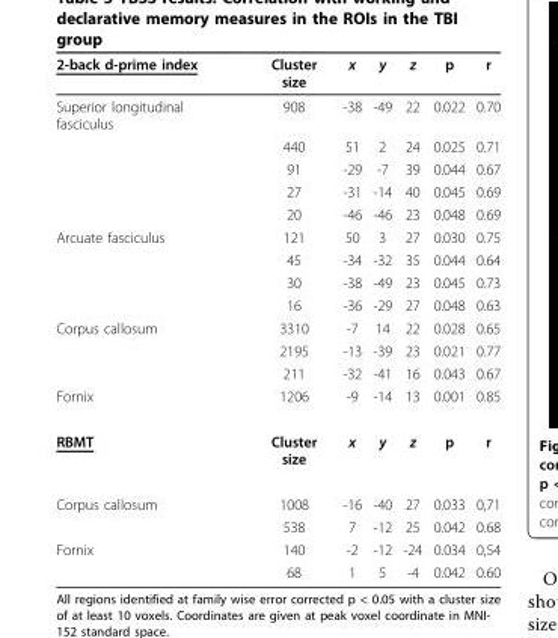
<table><thead><tr><td>2-back d-prime index</td><td>Cluster size</td><td>x</td><td>y</td><td>z</td><td>p</td><td>r</td></tr></thead><tbody><tr><td rowspan="5">Superior longitudinal fasciculus</td><td>908</td><td>-38</td><td>-49</td><td>22</td><td>0.022</td><td>0.70</td></tr><tr><td>440</td><td>51</td><td>2</td><td>24</td><td>0.025</td><td>0.71</td></tr><tr><td>91</td><td>-29</td><td>-7</td><td>39</td><td>0.044</td><td>0.67</td></tr><tr><td>27</td><td>-31</td><td>-14</td><td>40</td><td>0.045</td><td>0.69</td></tr><tr><td>20</td><td>-46</td><td>-46</td><td>23</td><td>0.048</td><td>0.69</td></tr><tr><td rowspan="4">Arcuate fasciculus</td><td>121</td><td>50</td><td>3</td><td>27</td><td>0.030</td><td>0.75</td></tr><tr><td>45</td><td>-34</td><td>-32</td><td>35</td><td>0.044</td><td>0.64</td></tr><tr><td>30</td><td>-38</td><td>-49</td><td>23</td><td>0.045</td><td>0.73</td></tr><tr><td>16</td><td>-36</td><td>-29</td><td>27</td><td>0.048</td><td>0.63</td></tr><tr><td rowspan="3">Corpus callosum</td><td>3310</td><td>-7</td><td>14</td><td>22</td><td>0.028</td><td>0.65</td></tr><tr><td>2195</td><td>-13</td><td>-39</td><td>23</td><td>0.021</td><td>0.77</td></tr><tr><td>211</td><td>-32</td><td>-41</td><td>16</td><td>0.043</td><td>0.67</td></tr><tr><td>Fornix</td><td>1206</td><td>-9</td><td>-14</td><td>13</td><td>0.001</td><td>0.85</td></tr><tr><td>RBMT</td><td>Cluster size</td><td>x</td><td>y</td><td>z</td><td>p</td><td>r</td></tr><tr><td rowspan="2">Corpus callosum</td><td>1008</td><td>-16</td><td>-40</td><td>27</td><td>0.033</td><td>0,71</td></tr><tr><td>538</td><td>7</td><td>-12</td><td>25</td><td>0.042</td><td>0.68</td></tr><tr><td rowspan="2">Fornix</td><td>140</td><td>-2</td><td>-12</td><td>-24</td><td>0.034</td><td>0,54</td></tr><tr><td>68</td><td>1</td><td>5</td><td>-4</td><td>0.042</td><td>0.60</td></tr></tbody></table>